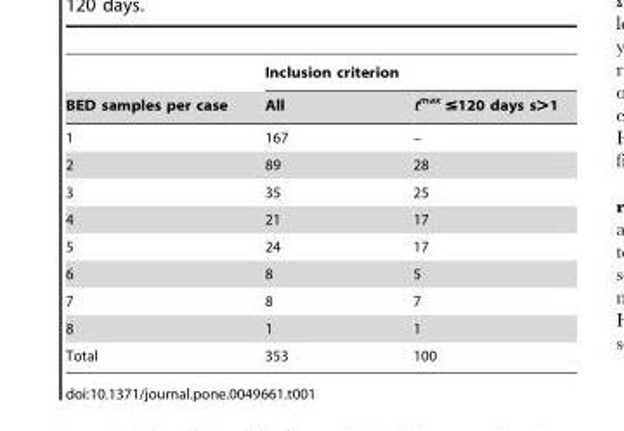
<table><thead><tr><td rowspan="2">BED samples per case</td><td colspan="2">Inclusion criterion</td></tr><tr><td>All</td><td>t<sup>max</sup> ≤120 days s&gt;1</td></tr></thead><tbody><tr><td>1</td><td>167</td><td>–</td></tr><tr><td>2</td><td>89</td><td>28</td></tr><tr><td>3</td><td>35</td><td>25</td></tr><tr><td>4</td><td>21</td><td>17</td></tr><tr><td>5</td><td>24</td><td>17</td></tr><tr><td>6</td><td>8</td><td>5</td></tr><tr><td>7</td><td>8</td><td>7</td></tr><tr><td>8</td><td>1</td><td>1</td></tr><tr><td>Total</td><td>353</td><td>100</td></tr></tbody></table>